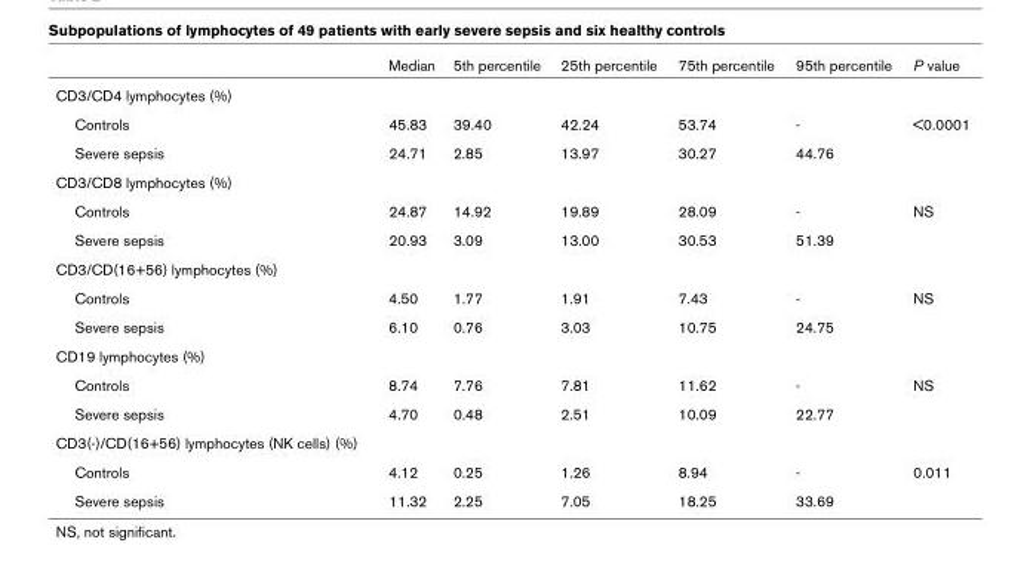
<table><thead><tr><td></td><td>Median</td><td>5th percentile</td><td>25th percentile</td><td>75th percentile</td><td>95th percentile</td><td>P value</td></tr></thead><tbody><tr><td colspan="7">CD3/CD4 lymphocytes (%)</td></tr><tr><td>Controls</td><td>45.83</td><td>39.40</td><td>42.24</td><td>53.74</td><td>-</td><td>&lt;0.0001</td></tr><tr><td>Severe sepsis</td><td>24.71</td><td>2.85</td><td>13.97</td><td>30.27</td><td>44.76</td><td></td></tr><tr><td colspan="7">CD3/CD8 lymphocytes (%)</td></tr><tr><td>Controls</td><td>24.87</td><td>14.92</td><td>19.89</td><td>28.09</td><td>-</td><td>NS</td></tr><tr><td>Severe sepsis</td><td>20.93</td><td>3.09</td><td>13.00</td><td>30.53</td><td>51.39</td><td></td></tr><tr><td colspan="7">CD3/CD(16+56) lymphocytes (%)</td></tr><tr><td>Controls</td><td>4.50</td><td>1.77</td><td>1.91</td><td>7.43</td><td>-</td><td>NS</td></tr><tr><td>Severe sepsis</td><td>6.10</td><td>0.76</td><td>3.03</td><td>10.75</td><td>24.75</td><td></td></tr><tr><td colspan="7">CD19 lymphocytes (%)</td></tr><tr><td>Controls</td><td>8.74</td><td>7.76</td><td>7.81</td><td>11.62</td><td>-</td><td>NS</td></tr><tr><td>Severe sepsis</td><td>4.70</td><td>0.48</td><td>2.51</td><td>10.09</td><td>22.77</td><td></td></tr><tr><td colspan="7">CD3(-)/CD(16+56) lymphocytes (NK cells) (%)</td></tr><tr><td>Controls</td><td>4.12</td><td>0.25</td><td>1.26</td><td>8.94</td><td>-</td><td>0.011</td></tr><tr><td>Severe sepsis</td><td>11.32</td><td>2.25</td><td>7.05</td><td>18.25</td><td>33.69</td><td></td></tr></tbody></table>